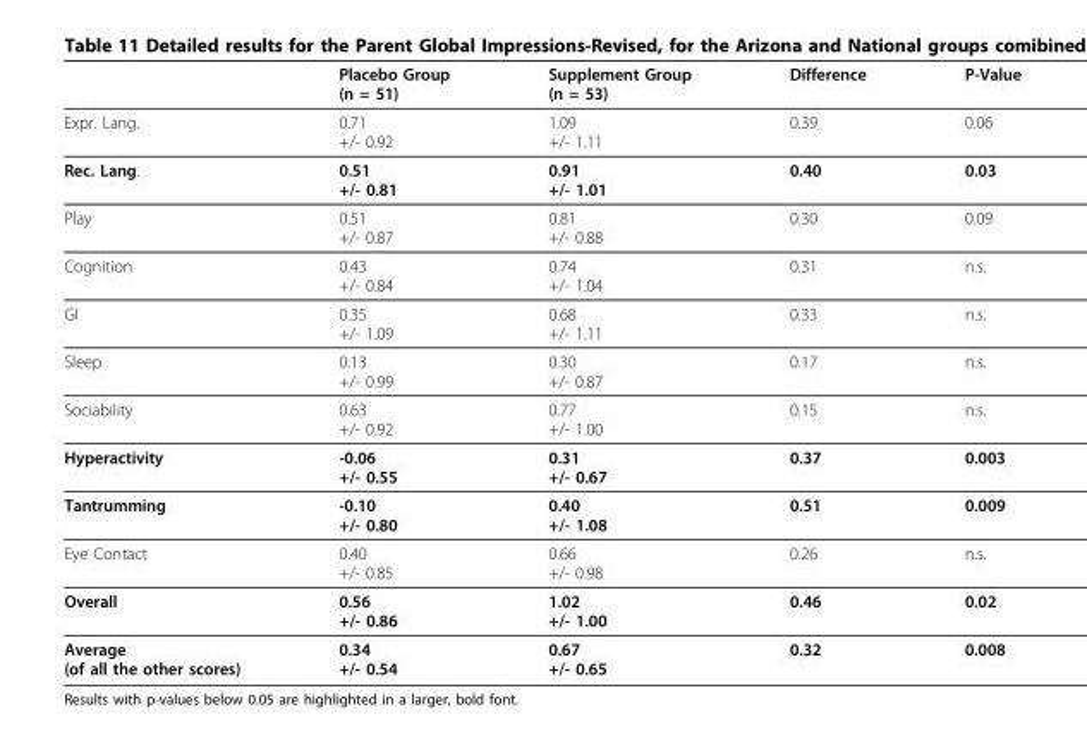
<table><thead><tr><td></td><td>Placebo Group (n = 51)</td><td>Supplement Group (n = 53)</td><td>Difference</td><td>P-Value</td></tr></thead><tbody><tr><td>Expr. Lang.</td><td>0.71 +/- 0.92</td><td>1.09 +/- 1.11</td><td>0.39</td><td>0.06</td></tr><tr><td>Rec. Lang.</td><td>0.51 +/- 0.81</td><td>0.91 +/- 1.01</td><td>0.40</td><td>0.03</td></tr><tr><td>Play</td><td>0.51 +/- 0.87</td><td>0.81 +/- 0.88</td><td>0.30</td><td>0.09</td></tr><tr><td>Cognition</td><td>0.43 +/- 0.84</td><td>0.74 +/- 1.04</td><td>0.31</td><td>n.s.</td></tr><tr><td>GI</td><td>0.35 +/- 1.09</td><td>0.68 +/- 1.11</td><td>0.33</td><td>n.s.</td></tr><tr><td>Sleep</td><td>0.13 +/- 0.99</td><td>0.30 +/- 0.87</td><td>0.17</td><td>n.s.</td></tr><tr><td>Sociability</td><td>0.63 +/- 0.92</td><td>0.77 +/- 1.00</td><td>0.15</td><td>n.s.</td></tr><tr><td>Hyperactivity</td><td>-0.06 +/- 0.55</td><td>0.31 +/- 0.67</td><td>0.37</td><td>0.003</td></tr><tr><td>Tantrumming</td><td>-0.10 +/- 0.80</td><td>0.40 +/- 1.08</td><td>0.51</td><td>0.009</td></tr><tr><td>Eye Contact</td><td>0.40 +/- 0.85</td><td>0.66 +/- 0.98</td><td>0.26</td><td>n.s.</td></tr><tr><td>Overall</td><td>0.56 +/- 0.86</td><td>1.02 +/- 1.00</td><td>0.46</td><td>0.02</td></tr><tr><td>Average (of all the other scores)</td><td>0.34 +/- 0.54</td><td>0.67 +/- 0.65</td><td>0.32</td><td>0.008</td></tr></tbody></table>